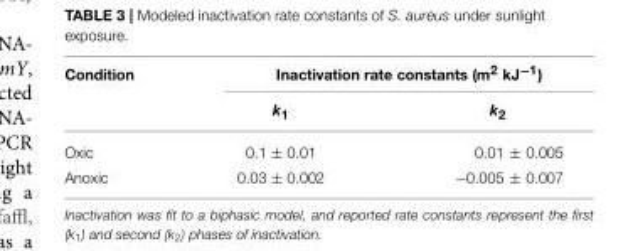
<table><thead><tr><td rowspan="2">Condition</td><td colspan="2">Inactivation rate constants (m<sup>2</sup> kJ<sup>−1</sup>)</td></tr><tr><td>k<sub>1</sub></td><td>k<sub>2</sub></td></tr></thead><tbody><tr><td>Oxic</td><td>0.1 ± 0.01</td><td>0.01 ± 0.005</td></tr><tr><td>Anoxic</td><td>0.03 ± 0.002</td><td>−0.005 ± 0.007</td></tr></tbody></table>